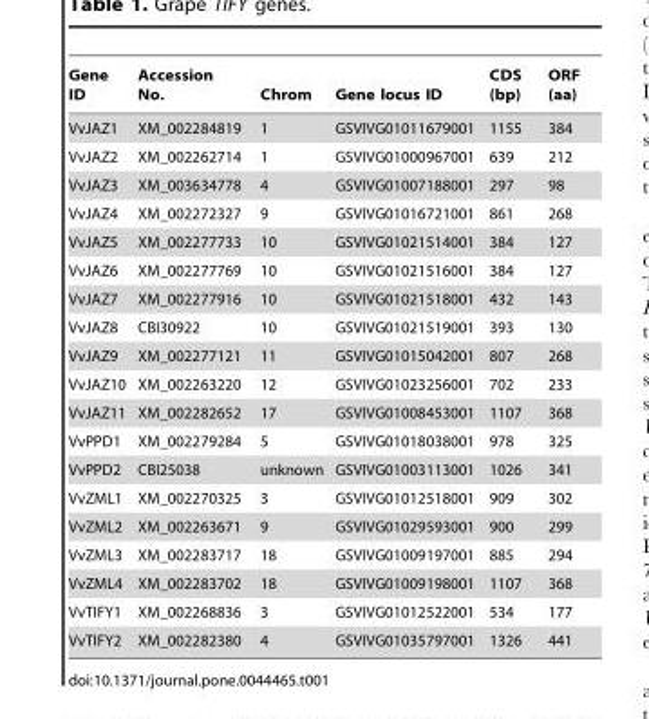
<table><thead><tr><td>Gene ID</td><td>Accession No.</td><td>Chrom</td><td>Gene locus ID</td><td>CDS (bp)</td><td>ORF (aa)</td></tr></thead><tbody><tr><td>VvJAZ1</td><td>XM_002284819</td><td>1</td><td>GSVIVG01011679001</td><td>1155</td><td>384</td></tr><tr><td>VvJAZ2</td><td>XM_002262714</td><td>1</td><td>GSVIVG01000967001</td><td>639</td><td>212</td></tr><tr><td>VvJAZ3</td><td>XM_003634778</td><td>4</td><td>GSVIVG01007188001</td><td>297</td><td>98</td></tr><tr><td>VvJAZ4</td><td>XM_002272327</td><td>9</td><td>GSVIVG01016721001</td><td>861</td><td>268</td></tr><tr><td>VvJAZ5</td><td>XM_002277733</td><td>10</td><td>GSVIVG01021514001</td><td>384</td><td>127</td></tr><tr><td>VvJAZ6</td><td>XM_002277769</td><td>10</td><td>GSVIVG01021516001</td><td>384</td><td>127</td></tr><tr><td>VvJAZ7</td><td>XM_002277916</td><td>10</td><td>GSVIVG01021518001</td><td>432</td><td>143</td></tr><tr><td>VvJAZ8</td><td>CBI30922</td><td>10</td><td>GSVIVG01021519001</td><td>393</td><td>130</td></tr><tr><td>VvJAZ9</td><td>XM_002277121</td><td>11</td><td>GSVIVG01015042001</td><td>807</td><td>268</td></tr><tr><td>VvJAZ10</td><td>XM_002263220</td><td>12</td><td>GSVIVG01023256001</td><td>702</td><td>233</td></tr><tr><td>VvJAZ11</td><td>XM_002282652</td><td>17</td><td>GSVIVG01008453001</td><td>1107</td><td>368</td></tr><tr><td>VvPPD1</td><td>XM_002279284</td><td>5</td><td>GSVIVG01018038001</td><td>978</td><td>325</td></tr><tr><td>VvPPD2</td><td>CBI25038</td><td>unknown</td><td>GSVIVG01003113001</td><td>1026</td><td>341</td></tr><tr><td>VvZML1</td><td>XM_002270325</td><td>3</td><td>GSVIVG01012518001</td><td>909</td><td>302</td></tr><tr><td>VvZML2</td><td>XM_002263671</td><td>9</td><td>GSVIVG01029593001</td><td>900</td><td>299</td></tr><tr><td>VvZML3</td><td>XM_002283717</td><td>18</td><td>GSVIVG01009197001</td><td>885</td><td>294</td></tr><tr><td>VvZML4</td><td>XM_002283702</td><td>18</td><td>GSVIVG01009198001</td><td>1107</td><td>368</td></tr><tr><td>VvTIFY1</td><td>XM_002268836</td><td>3</td><td>GSVIVG01012522001</td><td>534</td><td>177</td></tr><tr><td>VvTIFY2</td><td>XM_002282380</td><td>4</td><td>GSVIVG01035797001</td><td>1326</td><td>441</td></tr></tbody></table>